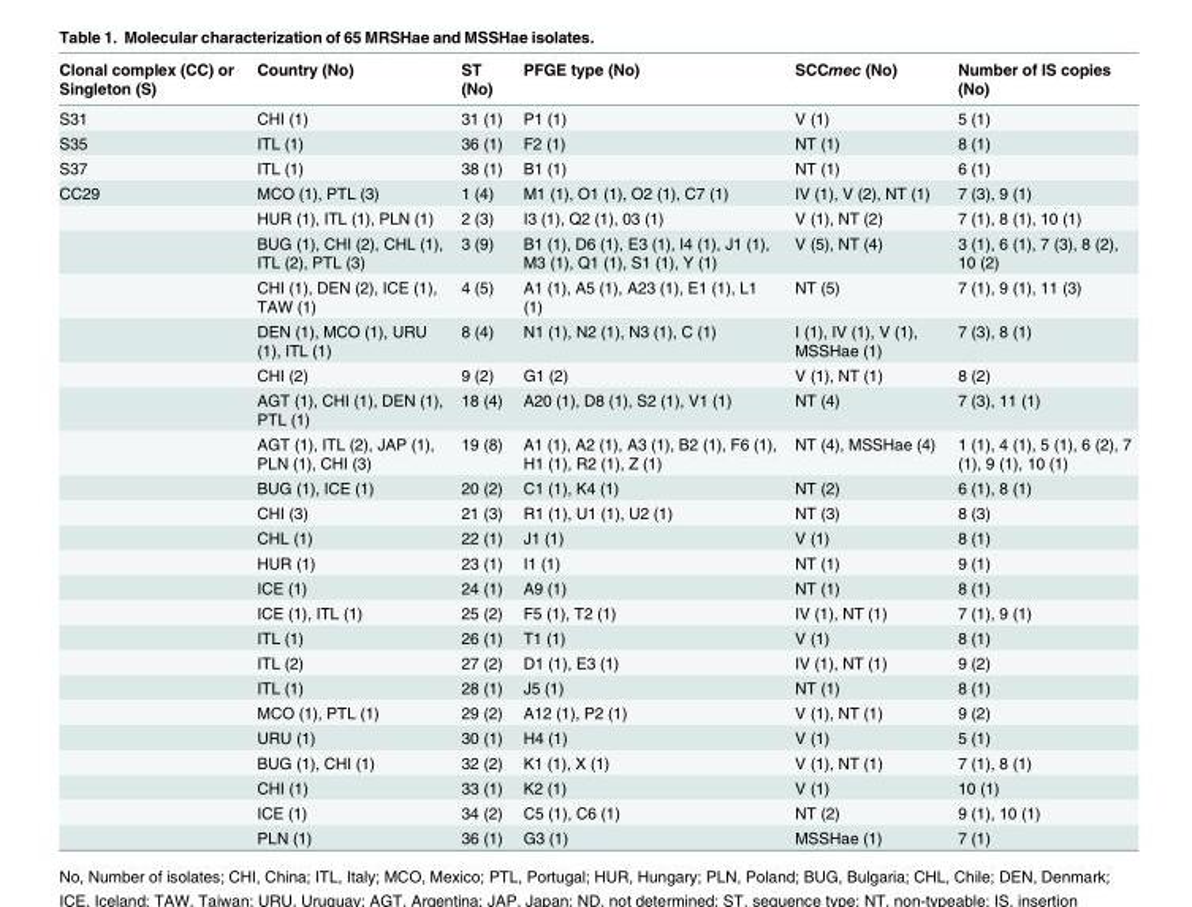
<table><thead><tr><td>Clonal complex (CC) or Singleton (S)</td><td>Country (No)</td><td>ST (No)</td><td>PFGE type (No)</td><td>SCCmec (No)</td><td>Number of IS copies (No)</td></tr></thead><tbody><tr><td>S31</td><td>CHI (1)</td><td>31 (1)</td><td>P1 (1)</td><td>V (1)</td><td>5 (1)</td></tr><tr><td>S35</td><td>ITL (1)</td><td>36 (1)</td><td>F2 (1)</td><td>NT (1)</td><td>8 (1)</td></tr><tr><td>S37</td><td>ITL (1)</td><td>38 (1)</td><td>B1 (1)</td><td>NT (1)</td><td>6 (1)</td></tr><tr><td rowspan="23">CC29</td><td>MCO (1), PTL (3)</td><td>1 (4)</td><td>M1 (1), O1 (1), O2 (1), C7 (1)</td><td>IV (1), V (2), NT (1)</td><td>7 (3), 9 (1)</td></tr><tr><td>HUR (1), ITL (1), PLN (1)</td><td>2 (3)</td><td>I3 (1), Q2 (1), 03 (1)</td><td>V (1), NT (2)</td><td>7 (1), 8 (1), 10 (1)</td></tr><tr><td>BUG (1), CHI (2), CHL (1), ITL (2), PTL (3)</td><td>3 (9)</td><td>B1 (1), D6 (1), E3 (1), I4 (1), J1 (1), M3 (1), Q1 (1), S1 (1), Y (1)</td><td>V (5), NT (4)</td><td>3 (1), 6 (1), 7 (3), 8 (2), 10 (2)</td></tr><tr><td>CHI (1), DEN (2), ICE (1), TAW (1)</td><td>4 (5)</td><td>A1 (1), A5 (1), A23 (1), E1 (1), L1 (1)</td><td>NT (5)</td><td>7 (1), 9 (1), 11 (3)</td></tr><tr><td>DEN (1), MCO (1), URU (1), ITL (1)</td><td>8 (4)</td><td>N1 (1), N2 (1), N3 (1), C (1)</td><td>I (1), IV (1), V (1), MSSHae (1)</td><td>7 (3), 8 (1)</td></tr><tr><td>CHI (2)</td><td>9 (2)</td><td>G1 (2)</td><td>V (1), NT (1)</td><td>8 (2)</td></tr><tr><td>AGT (1), CHI (1), DEN (1), PTL (1)</td><td>18 (4)</td><td>A20 (1), D8 (1), S2 (1), V1 (1)</td><td>NT (4)</td><td>7 (3), 11 (1)</td></tr><tr><td>AGT (1), ITL (2), JAP (1), PLN (1), CHI (3)</td><td>19 (8)</td><td>A1 (1), A2 (1), A3 (1), B2 (1), F6 (1), H1 (1), R2 (1), Z (1)</td><td>NT (4), MSSHae (4)</td><td>1 (1), 4 (1), 5 (1), 6 (2), 7 (1), 9 (1), 10 (1)</td></tr><tr><td>BUG (1), ICE (1)</td><td>20 (2)</td><td>C1 (1), K4 (1)</td><td>NT (2)</td><td>6 (1), 8 (1)</td></tr><tr><td>CHI (3)</td><td>21 (3)</td><td>R1 (1), U1 (1), U2 (1)</td><td>NT (3)</td><td>8 (3)</td></tr><tr><td>CHL (1)</td><td>22 (1)</td><td>J1 (1)</td><td>V (1)</td><td>8 (1)</td></tr><tr><td>HUR (1)</td><td>23 (1)</td><td>I1 (1)</td><td>NT (1)</td><td>9 (1)</td></tr><tr><td>ICE (1)</td><td>24 (1)</td><td>A9 (1)</td><td>NT (1)</td><td>8 (1)</td></tr><tr><td>ICE (1), ITL (1)</td><td>25 (2)</td><td>F5 (1), T2 (1)</td><td>IV (1), NT (1)</td><td>7 (1), 9 (1)</td></tr><tr><td>ITL (1)</td><td>26 (1)</td><td>T1 (1)</td><td>V (1)</td><td>8 (1)</td></tr><tr><td>ITL (2)</td><td>27 (2)</td><td>D1 (1), E3 (1)</td><td>IV (1), NT (1)</td><td>9 (2)</td></tr><tr><td>ITL (1)</td><td>28 (1)</td><td>J5 (1)</td><td>NT (1)</td><td>8 (1)</td></tr><tr><td>MCO (1), PTL (1)</td><td>29 (2)</td><td>A12 (1), P2 (1)</td><td>V (1), NT (1)</td><td>9 (2)</td></tr><tr><td>URU (1)</td><td>30 (1)</td><td>H4 (1)</td><td>V (1)</td><td>5 (1)</td></tr><tr><td>BUG (1), CHI (1)</td><td>32 (2)</td><td>K1 (1), X (1)</td><td>V (1), NT (1)</td><td>7 (1), 8 (1)</td></tr><tr><td>CHI (1)</td><td>33 (1)</td><td>K2 (1)</td><td>V (1)</td><td>10 (1)</td></tr><tr><td>ICE (1)</td><td>34 (2)</td><td>C5 (1), C6 (1)</td><td>NT (2)</td><td>9 (1), 10 (1)</td></tr><tr><td>PLN (1)</td><td>36 (1)</td><td>G3 (1)</td><td>MSSHae (1)</td><td>7 (1)</td></tr></tbody></table>